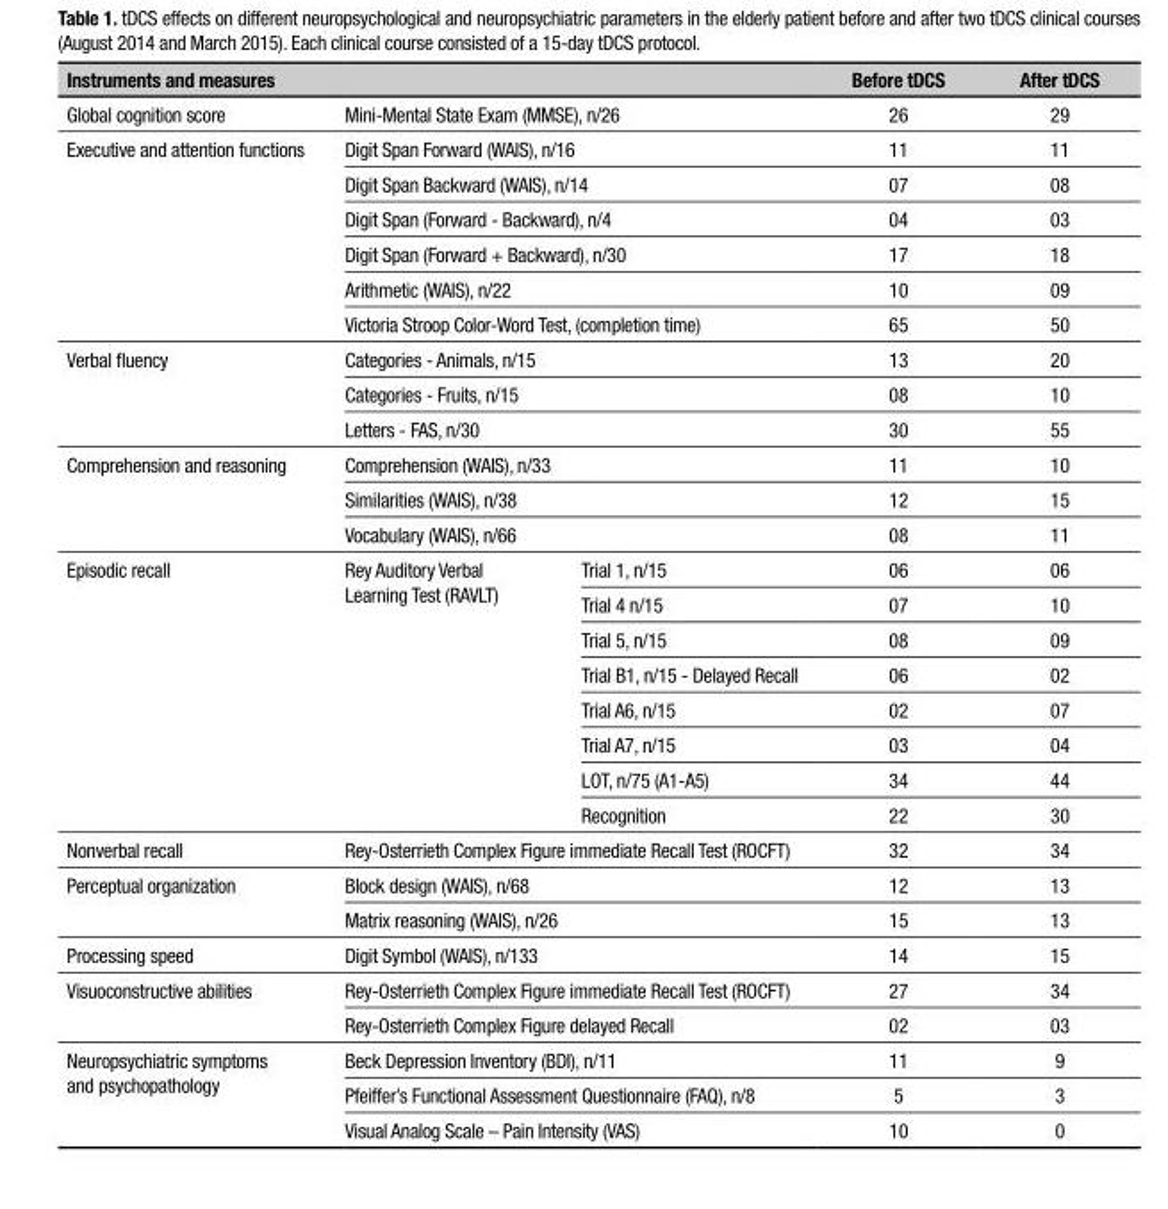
<table><thead><tr><td>Instruments and measures</td><td></td><td></td><td>Before tDCS</td><td>After tDCS</td></tr></thead><tbody><tr><td>Global cognition score</td><td colspan="2">Mini-Mental State Exam (MMSE), n/26</td><td>26</td><td>29</td></tr><tr><td rowspan="6">Executive and attention functions</td><td colspan="2">Digit Span Forward (WAIS), n/16</td><td>11</td><td>11</td></tr><tr><td colspan="2">Digit Span Backward (WAIS), n/14</td><td>07</td><td>08</td></tr><tr><td colspan="2">Digit Span (Forward - Backward), n/4</td><td>04</td><td>03</td></tr><tr><td colspan="2">Digit Span (Forward + Backward), n/30</td><td>17</td><td>18</td></tr><tr><td colspan="2">Arithmetic (WAIS), n/22</td><td>10</td><td>09</td></tr><tr><td colspan="2">Victoria Stroop Color-Word Test, (completion time)</td><td>65</td><td>50</td></tr><tr><td rowspan="3">Verbal fluency</td><td colspan="2">Categories - Animals, n/15</td><td>13</td><td>20</td></tr><tr><td colspan="2">Categories - Fruits, n/15</td><td>08</td><td>10</td></tr><tr><td colspan="2">Letters - FAS, n/30</td><td>30</td><td>55</td></tr><tr><td rowspan="3">Comprehension and reasoning</td><td colspan="2">Comprehension (WAIS), n/33</td><td>11</td><td>10</td></tr><tr><td colspan="2">Similarities (WAIS), n/38</td><td>12</td><td>15</td></tr><tr><td colspan="2">Vocabulary (WAIS), n/66</td><td>08</td><td>11</td></tr><tr><td rowspan="8">Episodic recall</td><td rowspan="8">Rey Auditory Verbal Learning Test (RAVLT)</td><td>Trial 1, n/15</td><td>06</td><td>06</td></tr><tr><td>Trial 4 n/15</td><td>07</td><td>10</td></tr><tr><td>Trial 5, n/15</td><td>08</td><td>09</td></tr><tr><td>Trial B1, n/15 - Delayed Recall</td><td>06</td><td>02</td></tr><tr><td>Trial A6, n/15</td><td>02</td><td>07</td></tr><tr><td>Trial A7, n/15</td><td>03</td><td>04</td></tr><tr><td>LOT, n/75 (A1-A5)</td><td>34</td><td>44</td></tr><tr><td>Recognition</td><td>22</td><td>30</td></tr><tr><td>Nonverbal recall</td><td colspan="2">Rey-Osterrieth Complex Figure immediate Recall Test (ROCFT)</td><td>32</td><td>34</td></tr><tr><td rowspan="2">Perceptual organization</td><td colspan="2">Block design (WAIS), n/68</td><td>12</td><td>13</td></tr><tr><td colspan="2">Matrix reasoning (WAIS), n/26</td><td>15</td><td>13</td></tr><tr><td>Processing speed</td><td colspan="2">Digit Symbol (WAIS), n/133</td><td>14</td><td>15</td></tr><tr><td rowspan="2">Visuoconstructive abilities</td><td colspan="2">Rey-Osterrieth Complex Figure immediate Recall Test (ROCFT)</td><td>27</td><td>34</td></tr><tr><td colspan="2">Rey-Osterrieth Complex Figure delayed Recall</td><td>02</td><td>03</td></tr><tr><td rowspan="3">Neuropsychiatric symptoms and psychopathology</td><td colspan="2">Beck Depression Inventory (BDI), n/11</td><td>11</td><td>9</td></tr><tr><td colspan="2">Pfeiffer’s Functional Assessment Questionnaire (FAQ), n/8</td><td>5</td><td>3</td></tr><tr><td colspan="2">Visual Analog Scale – Pain Intensity (VAS)</td><td>10</td><td>0</td></tr></tbody></table>